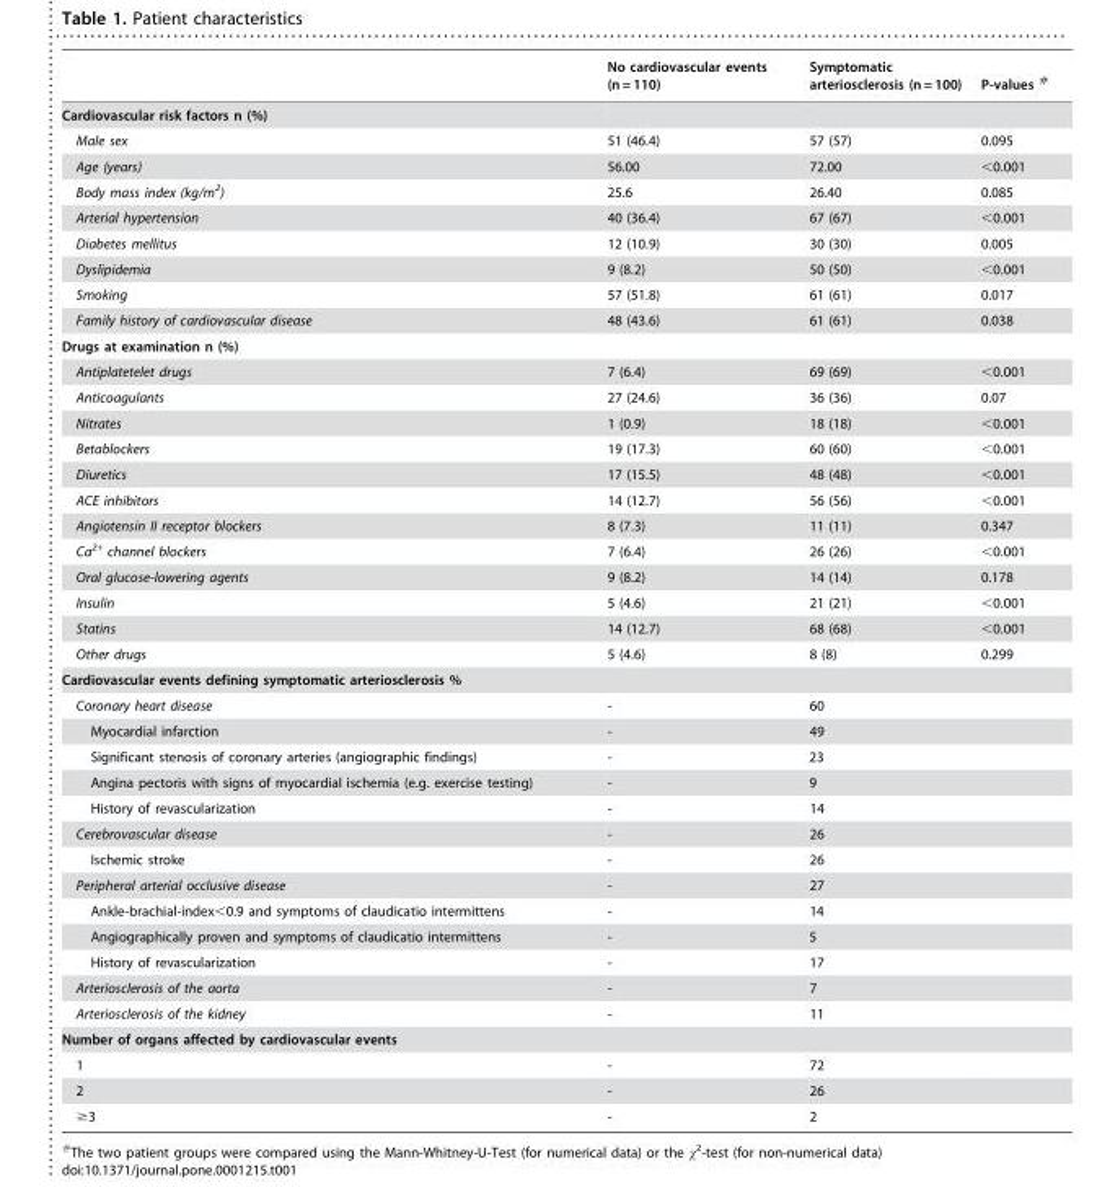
<table><thead><tr><td></td><td>No cardiovascular events (n = 110)</td><td>Symptomatic arteriosclerosis (n = 100)</td><td>P-values #</td></tr></thead><tbody><tr><td colspan="4">Cardiovascular risk factors n (%)</td></tr><tr><td>Male sex</td><td>51 (46.4)</td><td>57 (57)</td><td>0.095</td></tr><tr><td>Age (years)</td><td>56.00</td><td>72.00</td><td>&lt;0.001</td></tr><tr><td>Body mass index (kg/m<sup>2</sup>)</td><td>25.6</td><td>26.40</td><td>0.085</td></tr><tr><td>Arterial hypertension</td><td>40 (36.4)</td><td>67 (67)</td><td>&lt;0.001</td></tr><tr><td>Diabetes mellitus</td><td>12 (10.9)</td><td>30 (30)</td><td>0.005</td></tr><tr><td>Dyslipidemia</td><td>9 (8.2)</td><td>50 (50)</td><td>&lt;0.001</td></tr><tr><td>Smoking</td><td>57 (51.8)</td><td>61 (61)</td><td>0.017</td></tr><tr><td>Family history of cardiovascular disease</td><td>48 (43.6)</td><td>61 (61)</td><td>0.038</td></tr><tr><td colspan="4">Drugs at examination n (%)</td></tr><tr><td>Antiplatetelet drugs</td><td>7 (6.4)</td><td>69 (69)</td><td>&lt;0.001</td></tr><tr><td>Anticoagulants</td><td>27 (24.6)</td><td>36 (36)</td><td>0.07</td></tr><tr><td>Nitrates</td><td>1 (0.9)</td><td>18 (18)</td><td>&lt;0.001</td></tr><tr><td>Betablockers</td><td>19 (17.3)</td><td>60 (60)</td><td>&lt;0.001</td></tr><tr><td>Diuretics</td><td>17 (15.5)</td><td>48 (48)</td><td>&lt;0.001</td></tr><tr><td>ACE inhibitors</td><td>14 (12.7)</td><td>56 (56)</td><td>&lt;0.001</td></tr><tr><td>Angiotensin II receptor blockers</td><td>8 (7.3)</td><td>11 (11)</td><td>0.347</td></tr><tr><td>Ca<sup>2+</sup> channel blockers</td><td>7 (6.4)</td><td>26 (26)</td><td>&lt;0.001</td></tr><tr><td>Oral glucose-lowering agents</td><td>9 (8.2)</td><td>14 (14)</td><td>0.178</td></tr><tr><td>Insulin</td><td>5 (4.6)</td><td>21 (21)</td><td>&lt;0.001</td></tr><tr><td>Statins</td><td>14 (12.7)</td><td>68 (68)</td><td>&lt;0.001</td></tr><tr><td>Other drugs</td><td>5 (4.6)</td><td>8 (8)</td><td>0.299</td></tr><tr><td colspan="4">Cardiovascular events defining symptomatic arteriosclerosis %</td></tr><tr><td>Coronary heart disease</td><td>-</td><td>60</td><td></td></tr><tr><td>Myocardial infarction</td><td>-</td><td>49</td><td></td></tr><tr><td>Significant stenosis of coronary arteries (angiographic findings)</td><td>-</td><td>23</td><td></td></tr><tr><td>Angina pectoris with signs of myocardial ischemia (e.g. exercise testing)</td><td>-</td><td>9</td><td></td></tr><tr><td>History of revascularization</td><td>-</td><td>14</td><td></td></tr><tr><td>Cerebrovascular disease</td><td>-</td><td>26</td><td></td></tr><tr><td>Ischemic stroke</td><td>-</td><td>26</td><td></td></tr><tr><td>Peripheral arterial occlusive disease</td><td>-</td><td>27</td><td></td></tr><tr><td>Ankle-brachial-index&lt;0.9 and symptoms of claudicatio intermittens</td><td>-</td><td>14</td><td></td></tr><tr><td>Angiographically proven and symptoms of claudicatio intermittens</td><td>-</td><td>5</td><td></td></tr><tr><td>History of revascularization</td><td>-</td><td>17</td><td></td></tr><tr><td>Arteriosclerosis of the aorta</td><td>-</td><td>7</td><td></td></tr><tr><td>Arteriosclerosis of the kidney</td><td>-</td><td>11</td><td></td></tr><tr><td colspan="4">Number of organs affected by cardiovascular events</td></tr><tr><td>1</td><td>-</td><td>72</td><td></td></tr><tr><td>2</td><td>-</td><td>26</td><td></td></tr><tr><td>≥3</td><td>-</td><td>2</td><td></td></tr></tbody></table>